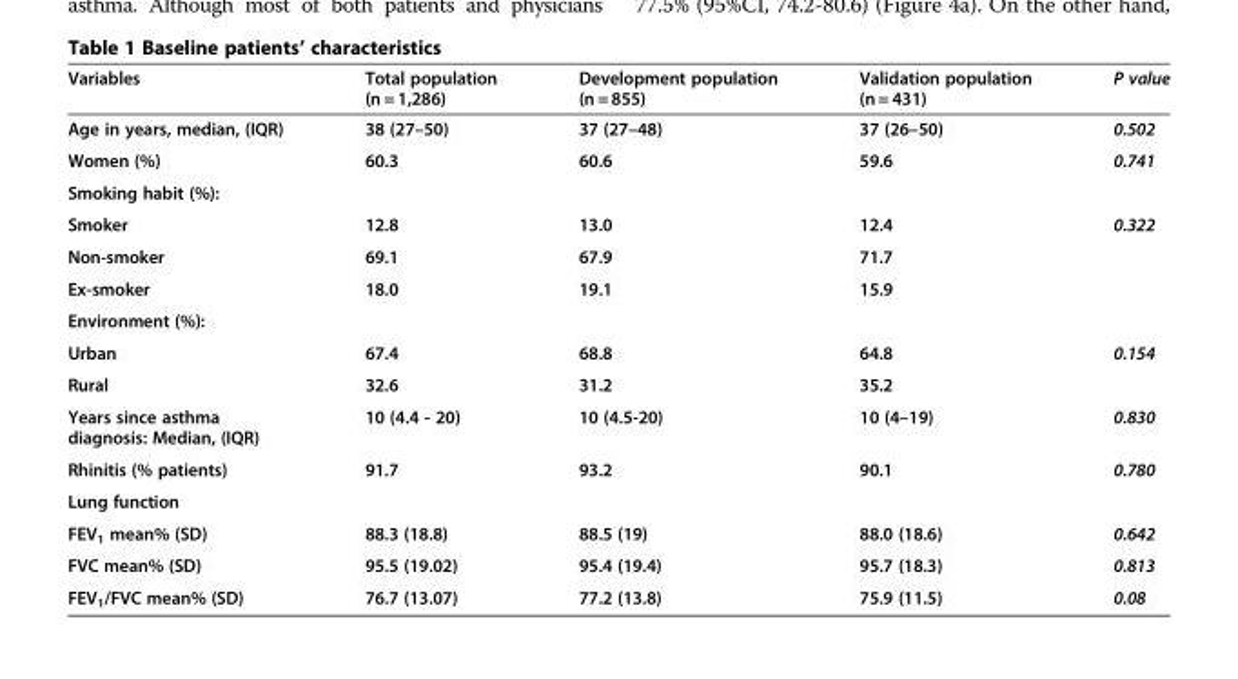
<table><thead><tr><td>Variables</td><td>Total population (n = 1,286)</td><td>Development population (n = 855)</td><td>Validation population (n = 431)</td><td>P value</td></tr></thead><tbody><tr><td>Age in years, median, (IQR)</td><td>38 (27–50)</td><td>37 (27–48)</td><td>37 (26–50)</td><td>0.502</td></tr><tr><td>Women (%)</td><td>60.3</td><td>60.6</td><td>59.6</td><td>0.741</td></tr><tr><td colspan="5">Smoking habit (%):</td></tr><tr><td>Smoker</td><td>12.8</td><td>13.0</td><td>12.4</td><td>0.322</td></tr><tr><td>Non-smoker</td><td>69.1</td><td>67.9</td><td>71.7</td><td></td></tr><tr><td>Ex-smoker</td><td>18.0</td><td>19.1</td><td>15.9</td><td></td></tr><tr><td colspan="5">Environment (%):</td></tr><tr><td>Urban</td><td>67.4</td><td>68.8</td><td>64.8</td><td>0.154</td></tr><tr><td>Rural</td><td>32.6</td><td>31.2</td><td>35.2</td><td></td></tr><tr><td>Years since asthma diagnosis: Median, (IQR)</td><td>10 (4.4 - 20)</td><td>10 (4.5-20)</td><td>10 (4–19)</td><td>0.830</td></tr><tr><td>Rhinitis (% patients)</td><td>91.7</td><td>93.2</td><td>90.1</td><td>0.780</td></tr><tr><td colspan="5">Lung function</td></tr><tr><td>FEV<sub>1</sub> mean% (SD)</td><td>88.3 (18.8)</td><td>88.5 (19)</td><td>88.0 (18.6)</td><td>0.642</td></tr><tr><td>FVC mean% (SD)</td><td>95.5 (19.02)</td><td>95.4 (19.4)</td><td>95.7 (18.3)</td><td>0.813</td></tr><tr><td>FEV<sub>1</sub>/FVC mean% (SD)</td><td>76.7 (13.07)</td><td>77.2 (13.8)</td><td>75.9 (11.5)</td><td>0.08</td></tr></tbody></table>